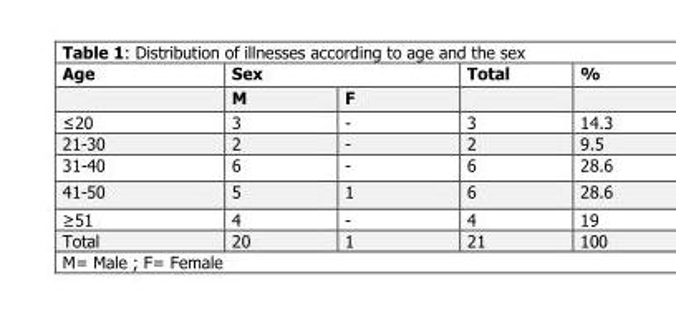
<table><thead><tr><td rowspan="2">Age</td><td colspan="2">Sex</td><td rowspan="2">Total</td><td rowspan="2">%</td></tr><tr><td>M</td><td>F</td></tr></thead><tbody><tr><td>≤20</td><td>3</td><td>-</td><td>3</td><td>14.3</td></tr><tr><td>21-30</td><td>2</td><td>-</td><td>2</td><td>9.5</td></tr><tr><td>31-40</td><td>6</td><td>-</td><td>6</td><td>28.6</td></tr><tr><td>41-50</td><td>5</td><td>1</td><td>6</td><td>28.6</td></tr><tr><td>≥51</td><td>4</td><td>-</td><td>4</td><td>19</td></tr><tr><td>Total</td><td>20</td><td>1</td><td>21</td><td>100</td></tr></tbody></table>